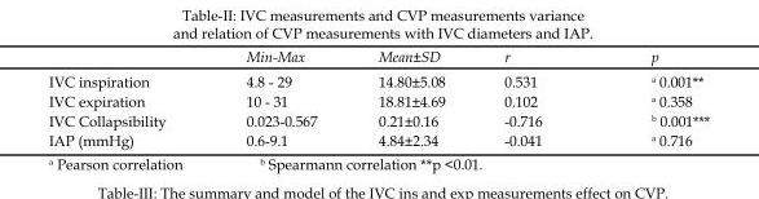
<table><thead><tr><td></td><td>Min-Max</td><td>Mean±SD</td><td>r</td><td>p</td></tr></thead><tbody><tr><td>IVC inspiration</td><td>4.8 - 29</td><td>14.80±5.08</td><td>0.531</td><td><sup>a</sup> 0.001**</td></tr><tr><td>IVC expiration</td><td>10 - 31</td><td>18.81±4.69</td><td>0.102</td><td><sup>a</sup> 0.358</td></tr><tr><td>IVC Collapsibility</td><td>0.023-0.567</td><td>0.21±0.16</td><td>-0.716</td><td><sup>b</sup> 0.001***</td></tr><tr><td>IAP (mmHg)</td><td>0.6-9.1</td><td>4.84±2.34</td><td>-0.041</td><td><sup>a</sup> 0.716</td></tr></tbody></table>